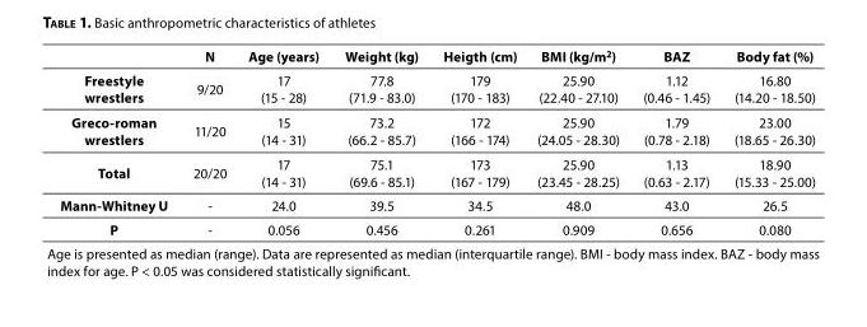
<table><thead><tr><td></td><td>N</td><td>Age (years)</td><td>Weight (kg)</td><td>Heigth (cm)</td><td>BMI (kg/m<sup>2</sup>)</td><td>BAZ</td><td>Body fat (%)</td></tr></thead><tbody><tr><td>Freestyle wrestlers</td><td>9/20</td><td>17 (15 - 28)</td><td>77.8 (71.9 - 83.0)</td><td>179 (170 - 183)</td><td>25.90 (22.40 - 27.10)</td><td>1.12 (0.46 - 1.45)</td><td>16.80 (14.20 - 18.50)</td></tr><tr><td>Greco-roman wrestlers</td><td>11/20</td><td>15 (14 - 31)</td><td>73.2 (66.2 - 85.7)</td><td>172 (166 - 174)</td><td>25.90 (24.05 - 28.30)</td><td>1.79 (0.78 - 2.18)</td><td>23.00 (18.65 - 26.30)</td></tr><tr><td>Total</td><td>20/20</td><td>17 (14 - 31)</td><td>75.1 (69.6 - 85.1)</td><td>173 (167 - 179)</td><td>25.90 (23.45 - 28.25)</td><td>1.13 (0.63 - 2.17)</td><td>18.90 (15.33 - 25.00)</td></tr><tr><td>Mann-Whitney U</td><td>-</td><td>24.0</td><td>39.5</td><td>34.5</td><td>48.0</td><td>43.0</td><td>26.5</td></tr><tr><td>P</td><td>-</td><td>0.056</td><td>0.456</td><td>0.261</td><td>0.909</td><td>0.656</td><td>0.080</td></tr><tr><td colspan="8">Age is presented as median (range). Data are represented as median (interquartile range). BMI - body mass index. BAZ - body mass index for age. P &lt; 0.05 was considered statistically significant.</td></tr></tbody></table>